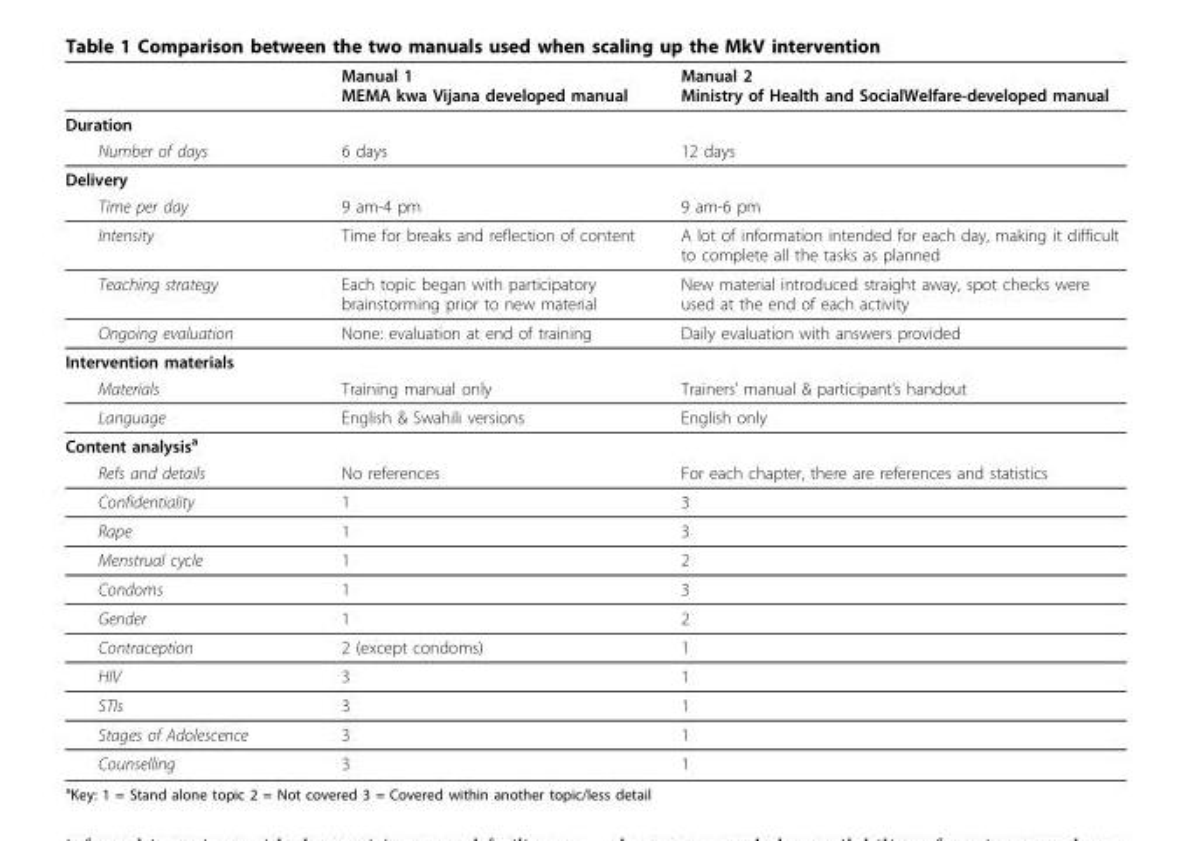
<table><thead><tr><td></td><td>Manual 1 MEMA kwa Vijana developed manual</td><td>Manual 2 Ministry of Health and SocialWelfare-developed manual</td></tr></thead><tbody><tr><td colspan="3">Duration</td></tr><tr><td>Number of days</td><td>6 days</td><td>12 days</td></tr><tr><td colspan="3">Delivery</td></tr><tr><td>Time per day</td><td>9 am-4 pm</td><td>9 am-6 pm</td></tr><tr><td>Intensity</td><td>Time for breaks and reflection of content</td><td>A lot of information intended for each day, making it difficult to complete all the tasks as planned</td></tr><tr><td>Teaching strategy</td><td>Each topic began with participatory brainstorming prior to new material</td><td>New material introduced straight away, spot checks were used at the end of each activity</td></tr><tr><td>Ongoing evaluation</td><td>None: evaluation at end of training</td><td>Daily evaluation with answers provided</td></tr><tr><td colspan="3">Intervention materials</td></tr><tr><td>Materials</td><td>Training manual only</td><td>Trainers’ manual &amp; participant’s handout</td></tr><tr><td>Language</td><td>English &amp; Swahili versions</td><td>English only</td></tr><tr><td colspan="3">Content analysis<sup>a</sup></td></tr><tr><td>Refs and details</td><td>No references</td><td>For each chapter, there are references and statistics</td></tr><tr><td>Confidentiality</td><td>1</td><td>3</td></tr><tr><td>Rape</td><td>1</td><td>3</td></tr><tr><td>Menstrual cycle</td><td>1</td><td>2</td></tr><tr><td>Condoms</td><td>1</td><td>3</td></tr><tr><td>Gender</td><td>1</td><td>2</td></tr><tr><td>Contraception</td><td>2 (except condoms)</td><td>1</td></tr><tr><td>HIV</td><td>3</td><td>1</td></tr><tr><td>STIs</td><td>3</td><td>1</td></tr><tr><td>Stages of Adolescence</td><td>3</td><td>1</td></tr><tr><td>Counselling</td><td>3</td><td>1</td></tr></tbody></table>